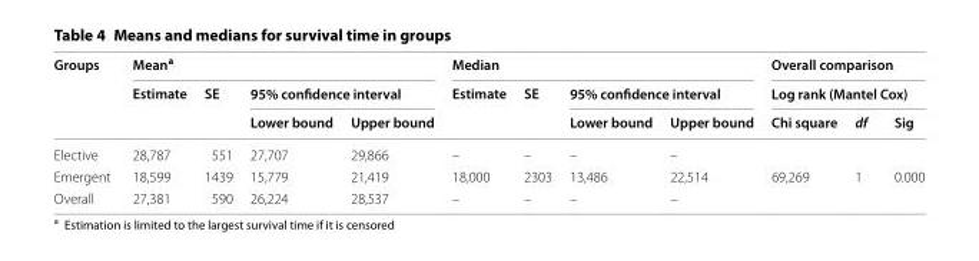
<table><thead><tr><td rowspan="3">Groups</td><td colspan="4">Mean<sup>a</sup></td><td colspan="4">Median</td><td rowspan="2" colspan="3">Overall comparison Log rank (Mantel Cox)</td></tr><tr><td rowspan="2">Estimate</td><td rowspan="2">SE</td><td colspan="2">95% confidence interval</td><td rowspan="2">Estimate</td><td rowspan="2">SE</td><td colspan="2">95% confidence interval</td></tr><tr><td>Lower bound</td><td>Upper bound</td><td>Lower bound</td><td>Upper bound</td><td>Chi square</td><td>df</td><td>Sig</td></tr></thead><tbody><tr><td>Elective</td><td>28,787</td><td>551</td><td>27,707</td><td>29,866</td><td>–</td><td>–</td><td>–</td><td>–</td><td></td><td></td><td></td></tr><tr><td>Emergent</td><td>18,599</td><td>1439</td><td>15,779</td><td>21,419</td><td>18,000</td><td>2303</td><td>13,486</td><td>22,514</td><td>69,269</td><td>1</td><td>0.000</td></tr><tr><td>Overall</td><td>27,381</td><td>590</td><td>26,224</td><td>28,537</td><td>–</td><td>–</td><td>–</td><td>–</td><td></td><td></td><td></td></tr></tbody></table>